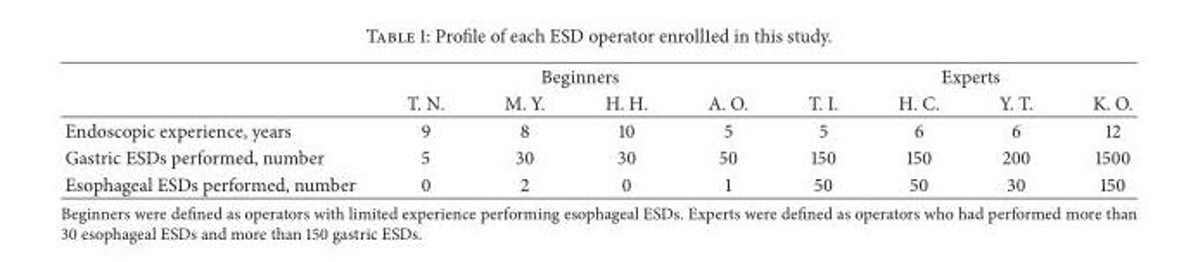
<table><thead><tr><td rowspan="2"></td><td colspan="4">Beginners</td><td colspan="4">Experts</td></tr><tr><td>T. N.</td><td>M. Y.</td><td>H. H.</td><td>A. O.</td><td>T. I.</td><td>H. C.</td><td>Y. T.</td><td>K. O.</td></tr></thead><tbody><tr><td>Endoscopic experience, years</td><td>9</td><td>8</td><td>10</td><td>5</td><td>5</td><td>6</td><td>6</td><td>12</td></tr><tr><td>Gastric ESDs performed, number</td><td>5</td><td>30</td><td>30</td><td>50</td><td>150</td><td>150</td><td>200</td><td>1500</td></tr><tr><td>Esophageal ESDs performed, number</td><td>0</td><td>2</td><td>0</td><td>1</td><td>50</td><td>50</td><td>30</td><td>150</td></tr></tbody></table>